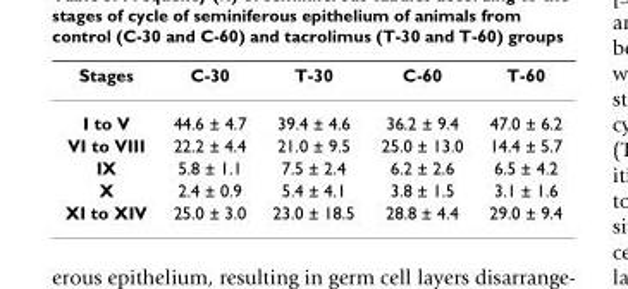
<table><thead><tr><td>Stages</td><td>C-30</td><td>T-30</td><td>C-60</td><td>T-60</td></tr></thead><tbody><tr><td>I to V</td><td>44.6 ± 4.7</td><td>39.4 ± 4.6</td><td>36.2 ± 9.4</td><td>47.0 ± 6.2</td></tr><tr><td>VI to VIII</td><td>22.2 ± 4.4</td><td>21.0 ± 9.5</td><td>25.0 ± 13.0</td><td>14.4 ± 5.7</td></tr><tr><td>IX</td><td>5.8 ± 1.1</td><td>7.5 ± 2.4</td><td>6.2 ± 2.6</td><td>6.5 ± 4.2</td></tr><tr><td>X</td><td>2.4 ± 0.9</td><td>5.4 ± 4.1</td><td>3.8 ± 1.5</td><td>3.1 ± 1.6</td></tr><tr><td>XI to XIV</td><td>25.0 ± 3.0</td><td>23.0 ± 18.5</td><td>28.8 ± 4.4</td><td>29.0 ± 9.4</td></tr></tbody></table>